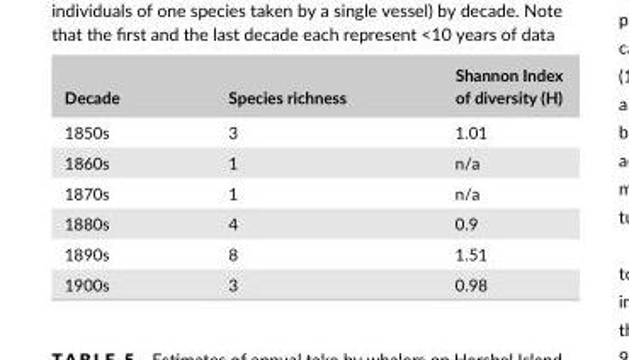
<table><thead><tr><td>Decade</td><td>Species richness</td><td>Shannon Index of diversity (H)</td></tr></thead><tbody><tr><td>1850s</td><td>3</td><td>1.01</td></tr><tr><td>1860s</td><td>1</td><td>n/a</td></tr><tr><td>1870s</td><td>1</td><td>n/a</td></tr><tr><td>1880s</td><td>4</td><td>0.9</td></tr><tr><td>1890s</td><td>8</td><td>1.51</td></tr><tr><td>1900s</td><td>3</td><td>0.98</td></tr></tbody></table>